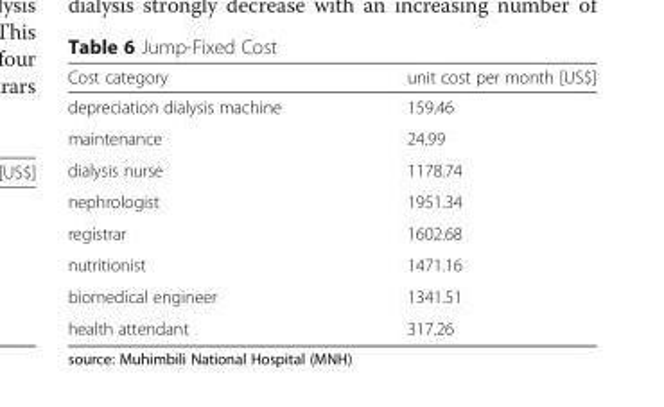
<table><thead><tr><td>Cost category</td><td>unit cost per month [US$]</td></tr></thead><tbody><tr><td>depreciation dialysis machine</td><td>159.46</td></tr><tr><td>maintenance</td><td>24.99</td></tr><tr><td>dialysis nurse</td><td>1178.74</td></tr><tr><td>nephrologist</td><td>1951.34</td></tr><tr><td>registrar</td><td>1602.68</td></tr><tr><td>nutritionist</td><td>1471.16</td></tr><tr><td>biomedical engineer</td><td>1341.51</td></tr><tr><td>health attendant</td><td>317.26</td></tr></tbody></table>